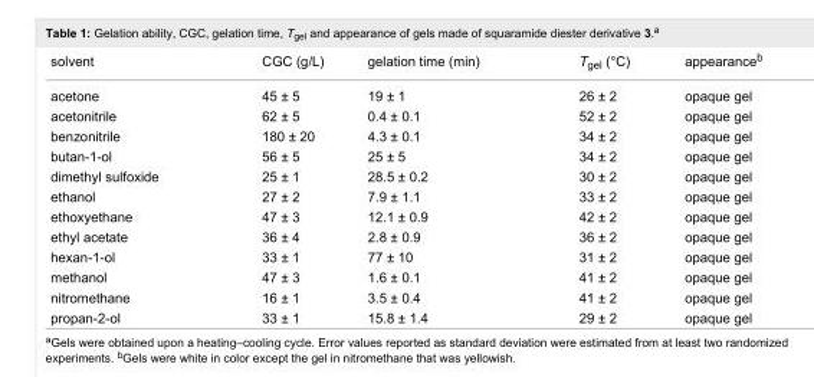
<table><tbody><tr><td>solvent</td><td>CGC (g/L)</td><td>gelation time (min)</td><td>Tgel (°C)</td><td>appearance<sup>b</sup></td></tr><tr><td>acetone</td><td>45 ± 5</td><td>19 ± 1</td><td>26 ± 2</td><td>opaque gel</td></tr><tr><td>acetonitrile</td><td>62 ± 5</td><td>0.4 ± 0.1</td><td>52 ± 2</td><td>opaque gel</td></tr><tr><td>benzonitrile</td><td>180 ± 20</td><td>4.3 ± 0.1</td><td>34 ± 2</td><td>opaque gel</td></tr><tr><td>butan-1-ol</td><td>56 ± 5</td><td>25 ± 5</td><td>34 ± 2</td><td>opaque gel</td></tr><tr><td>dimethyl sulfoxide</td><td>25 ± 1</td><td>28.5 ± 0.2</td><td>30 ± 2</td><td>opaque gel</td></tr><tr><td>ethanol</td><td>27 ± 2</td><td>7.9 ± 1.1</td><td>33 ± 2</td><td>opaque gel</td></tr><tr><td>ethoxyethane</td><td>47 ± 3</td><td>12.1 ± 0.9</td><td>42 ± 2</td><td>opaque gel</td></tr><tr><td>ethyl acetate</td><td>36 ± 4</td><td>2.8 ± 0.9</td><td>36 ± 2</td><td>opaque gel</td></tr><tr><td>hexan-1-ol</td><td>33 ± 1</td><td>77 ± 10</td><td>31 ± 2</td><td>opaque gel</td></tr><tr><td>methanol</td><td>47 ± 3</td><td>1.6 ± 0.1</td><td>41 ± 2</td><td>opaque gel</td></tr><tr><td>nitromethane</td><td>16 ± 1</td><td>3.5 ± 0.4</td><td>41 ± 2</td><td>opaque gel</td></tr><tr><td>propan-2-ol</td><td>33 ± 1</td><td>15.8 ± 1.4</td><td>29 ± 2</td><td>opaque gel</td></tr></tbody></table>